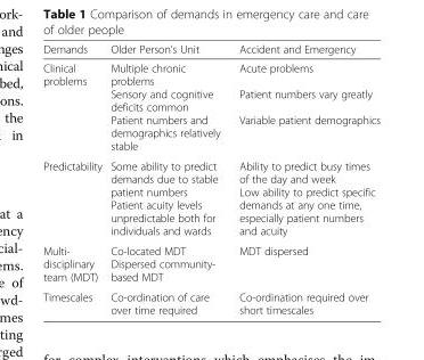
<table><thead><tr><td>Demands</td><td>Older Person’s Unit</td><td>Accident and Emergency</td></tr></thead><tbody><tr><td>Clinical problems</td><td>Multiple chronic problems Sensory and cognitive deficits common Patient numbers and demographics relatively stable</td><td>Acute problems Patient numbers vary greatly Variable patient demographics</td></tr><tr><td>Predictability</td><td>Some ability to predict demands due to stable patient numbers Patient acuity levels unpredictable both for individuals and wards</td><td>Ability to predict busy times of the day and week Low ability to predict specific demands at any one time, especially patient numbers and acuity</td></tr><tr><td>Multi- disciplinary team (MDT)</td><td>Co-located MDT Dispersed community- based MDT</td><td>MDT dispersed</td></tr><tr><td>Timescales</td><td>Co-ordination of care over time required</td><td>Co-ordination required over short timescales</td></tr></tbody></table>